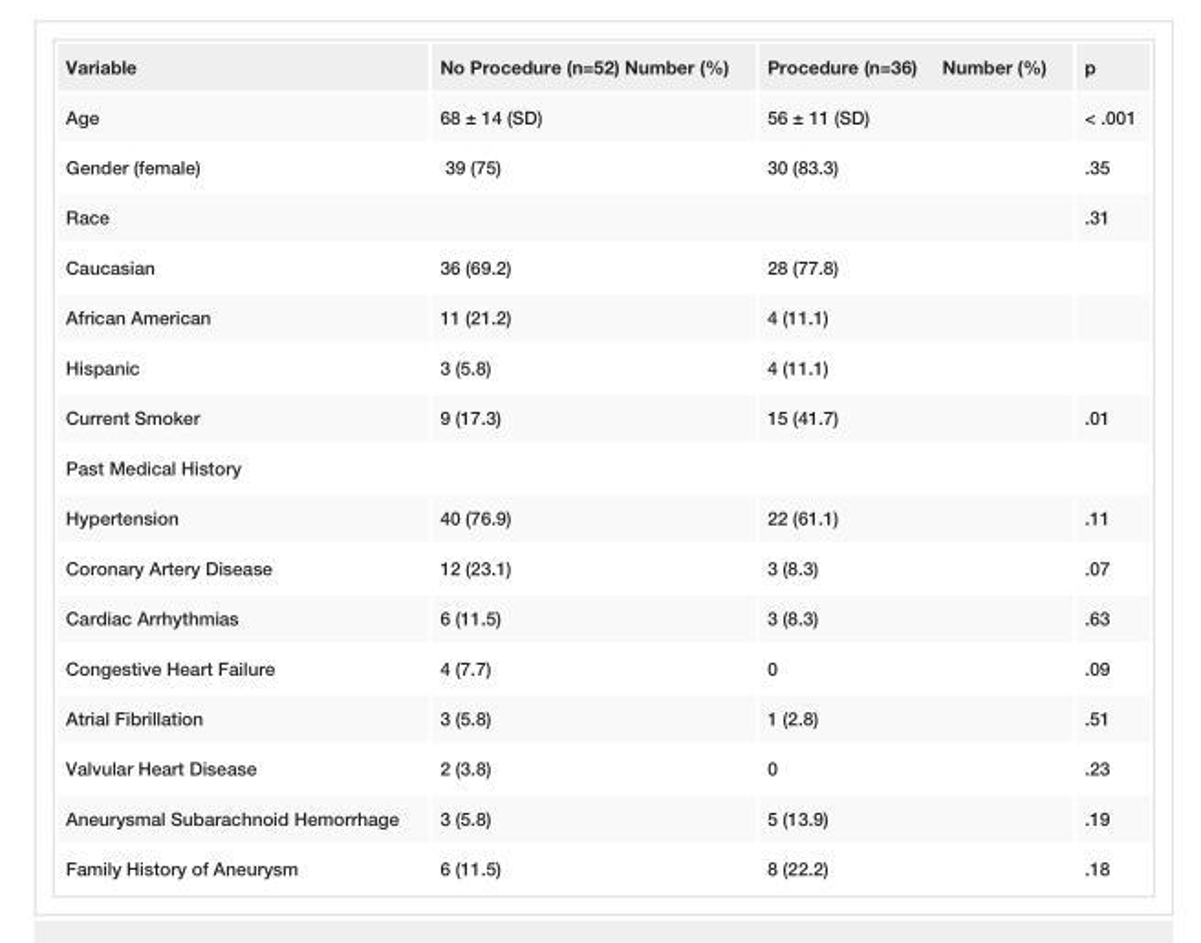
<table><tbody><tr><td>Variable</td><td>No Procedure (n=52) Number (%)</td><td>Procedure (n=36) Number (%)</td><td>p</td></tr><tr><td>Age</td><td>68 ± 14 (SD)</td><td>56 ± 11 (SD)</td><td>&lt; .001</td></tr><tr><td>Gender (female)</td><td>39 (75)</td><td>30 (83.3)</td><td>.35</td></tr><tr><td colspan="3">Race</td><td>.31</td></tr><tr><td>Caucasian</td><td>36 (69.2)</td><td>28 (77.8)</td><td></td></tr><tr><td>African American</td><td>11 (21.2)</td><td>4 (11.1)</td><td></td></tr><tr><td>Hispanic</td><td>3 (5.8)</td><td>4 (11.1)</td><td></td></tr><tr><td>Current Smoker</td><td>9 (17.3)</td><td>15 (41.7)</td><td>.01</td></tr><tr><td colspan="4">Past Medical History</td></tr><tr><td>Hypertension</td><td>40 (76.9)</td><td>22 (61.1)</td><td>.11</td></tr><tr><td>Coronary Artery Disease</td><td>12 (23.1)</td><td>3 (8.3)</td><td>.07</td></tr><tr><td>Cardiac Arrhythmias</td><td>6 (11.5)</td><td>3 (8.3)</td><td>.63</td></tr><tr><td>Congestive Heart Failure</td><td>4 (7.7)</td><td>0</td><td>.09</td></tr><tr><td>Atrial Fibrillation</td><td>3 (5.8)</td><td>1 (2.8)</td><td>.51</td></tr><tr><td>Valvular Heart Disease</td><td>2 (3.8)</td><td>0</td><td>.23</td></tr><tr><td>Aneurysmal Subarachnoid Hemorrhage</td><td>3 (5.8)</td><td>5 (13.9)</td><td>.19</td></tr><tr><td>Family History of Aneurysm</td><td>6 (11.5)</td><td>8 (22.2)</td><td>.18</td></tr></tbody></table>